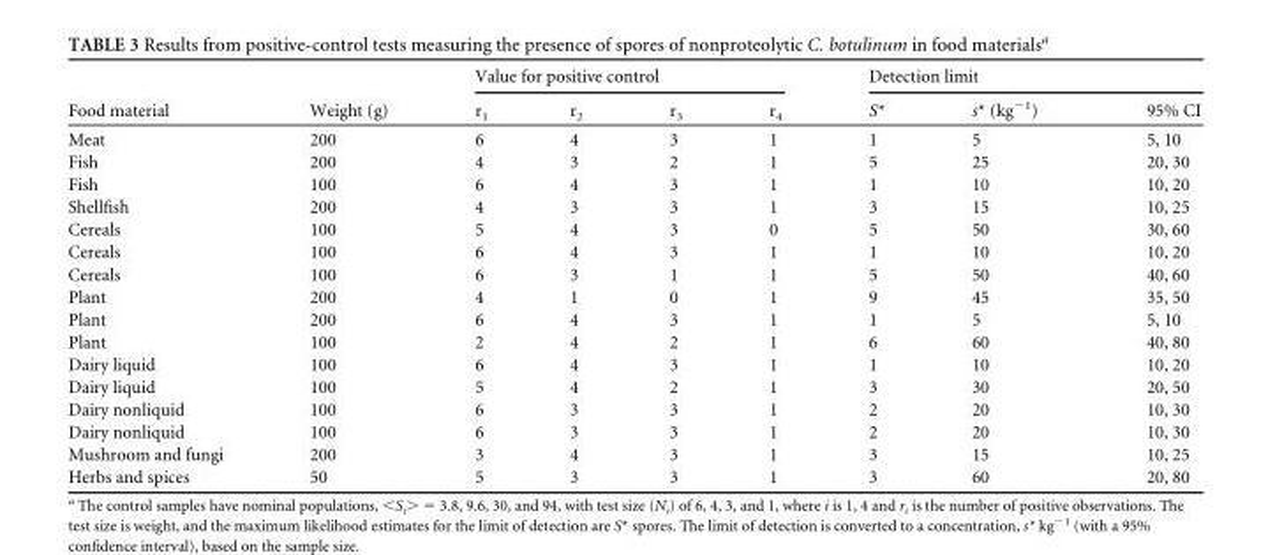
<table><thead><tr><td rowspan="2">Food material</td><td rowspan="2">Weight (g)</td><td colspan="4">Value for positive control</td><td colspan="3">Detection limit</td></tr><tr><td>r<sub>1</sub></td><td>r<sub>2</sub></td><td>r<sub>3</sub></td><td>r<sub>4</sub></td><td>S*</td><td>s* (kg<sup>−1</sup>)</td><td>95% CI</td></tr></thead><tbody><tr><td>Meat</td><td>200</td><td>6</td><td>4</td><td>3</td><td>1</td><td>1</td><td>5</td><td>5, 10</td></tr><tr><td>Fish</td><td>200</td><td>4</td><td>3</td><td>2</td><td>1</td><td>5</td><td>25</td><td>20, 30</td></tr><tr><td>Fish</td><td>100</td><td>6</td><td>4</td><td>3</td><td>1</td><td>1</td><td>10</td><td>10, 20</td></tr><tr><td>Shellfish</td><td>200</td><td>4</td><td>3</td><td>3</td><td>1</td><td>3</td><td>15</td><td>10, 25</td></tr><tr><td>Cereals</td><td>100</td><td>5</td><td>4</td><td>3</td><td>0</td><td>5</td><td>50</td><td>30, 60</td></tr><tr><td>Cereals</td><td>100</td><td>6</td><td>4</td><td>3</td><td>1</td><td>1</td><td>10</td><td>10, 20</td></tr><tr><td>Cereals</td><td>100</td><td>6</td><td>3</td><td>1</td><td>1</td><td>5</td><td>50</td><td>40, 60</td></tr><tr><td>Plant</td><td>200</td><td>4</td><td>1</td><td>0</td><td>1</td><td>9</td><td>45</td><td>35, 50</td></tr><tr><td>Plant</td><td>200</td><td>6</td><td>4</td><td>3</td><td>1</td><td>1</td><td>5</td><td>5, 10</td></tr><tr><td>Plant</td><td>100</td><td>2</td><td>4</td><td>2</td><td>1</td><td>6</td><td>60</td><td>40, 80</td></tr><tr><td>Dairy liquid</td><td>100</td><td>6</td><td>4</td><td>3</td><td>1</td><td>1</td><td>10</td><td>10, 20</td></tr><tr><td>Dairy liquid</td><td>100</td><td>5</td><td>4</td><td>2</td><td>1</td><td>3</td><td>30</td><td>20, 50</td></tr><tr><td>Dairy nonliquid</td><td>100</td><td>6</td><td>3</td><td>3</td><td>1</td><td>2</td><td>20</td><td>10, 30</td></tr><tr><td>Dairy nonliquid</td><td>100</td><td>6</td><td>3</td><td>3</td><td>1</td><td>2</td><td>20</td><td>10, 30</td></tr><tr><td>Mushroom and fungi</td><td>200</td><td>3</td><td>4</td><td>3</td><td>1</td><td>3</td><td>15</td><td>10, 25</td></tr><tr><td>Herbs and spices</td><td>50</td><td>5</td><td>3</td><td>3</td><td>1</td><td>3</td><td>60</td><td>20, 80</td></tr></tbody></table>